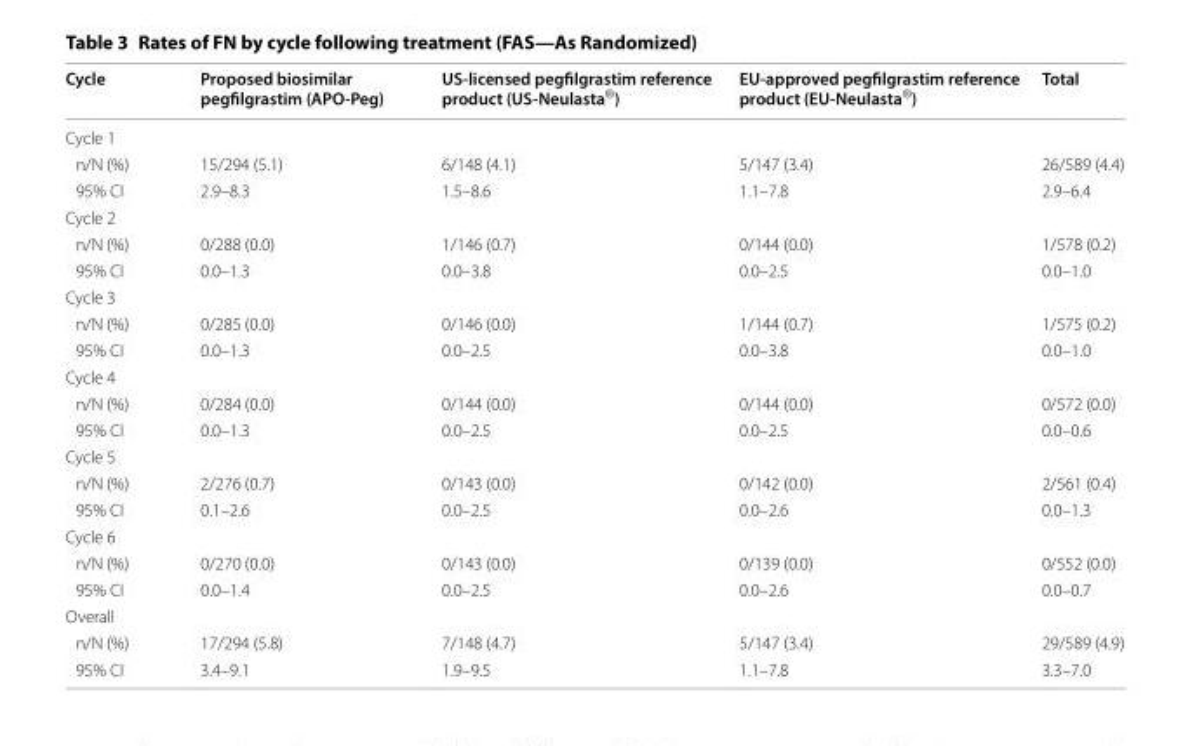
<table><thead><tr><td>Cycle</td><td>Proposed biosimilar pegfilgrastim (APO-Peg)</td><td>US-licensed pegfilgrastim reference product (US-Neulasta<sup>®</sup>)</td><td>EU-approved pegfilgrastim reference product (EU-Neulasta<sup>®</sup>)</td><td>Total</td></tr></thead><tbody><tr><td colspan="5">Cycle 1</td></tr><tr><td>n/N (%)</td><td>15/294 (5.1)</td><td>6/148 (4.1)</td><td>5/147 (3.4)</td><td>26/589 (4.4)</td></tr><tr><td>95% CI</td><td>2.9–8.3</td><td>1.5–8.6</td><td>1.1–7.8</td><td>2.9–6.4</td></tr><tr><td colspan="5">Cycle 2</td></tr><tr><td>n/N (%)</td><td>0/288 (0.0)</td><td>1/146 (0.7)</td><td>0/144 (0.0)</td><td>1/578 (0.2)</td></tr><tr><td>95% CI</td><td>0.0–1.3</td><td>0.0–3.8</td><td>0.0–2.5</td><td>0.0–1.0</td></tr><tr><td colspan="5">Cycle 3</td></tr><tr><td>n/N (%)</td><td>0/285 (0.0)</td><td>0/146 (0.0)</td><td>1/144 (0.7)</td><td>1/575 (0.2)</td></tr><tr><td>95% CI</td><td>0.0–1.3</td><td>0.0–2.5</td><td>0.0–3.8</td><td>0.0–1.0</td></tr><tr><td colspan="5">Cycle 4</td></tr><tr><td>n/N (%)</td><td>0/284 (0.0)</td><td>0/144 (0.0)</td><td>0/144 (0.0)</td><td>0/572 (0.0)</td></tr><tr><td>95% CI</td><td>0.0–1.3</td><td>0.0–2.5</td><td>0.0–2.5</td><td>0.0–0.6</td></tr><tr><td colspan="5">Cycle 5</td></tr><tr><td>n/N (%)</td><td>2/276 (0.7)</td><td>0/143 (0.0)</td><td>0/142 (0.0)</td><td>2/561 (0.4)</td></tr><tr><td>95% CI</td><td>0.1–2.6</td><td>0.0–2.5</td><td>0.0–2.6</td><td>0.0–1.3</td></tr><tr><td colspan="5">Cycle 6</td></tr><tr><td>n/N (%)</td><td>0/270 (0.0)</td><td>0/143 (0.0)</td><td>0/139 (0.0)</td><td>0/552 (0.0)</td></tr><tr><td>95% CI</td><td>0.0–1.4</td><td>0.0–2.5</td><td>0.0–2.6</td><td>0.0–0.7</td></tr><tr><td colspan="5">Overall</td></tr><tr><td>n/N (%)</td><td>17/294 (5.8)</td><td>7/148 (4.7)</td><td>5/147 (3.4)</td><td>29/589 (4.9)</td></tr><tr><td>95% CI</td><td>3.4–9.1</td><td>1.9–9.5</td><td>1.1–7.8</td><td>3.3–7.0</td></tr></tbody></table>